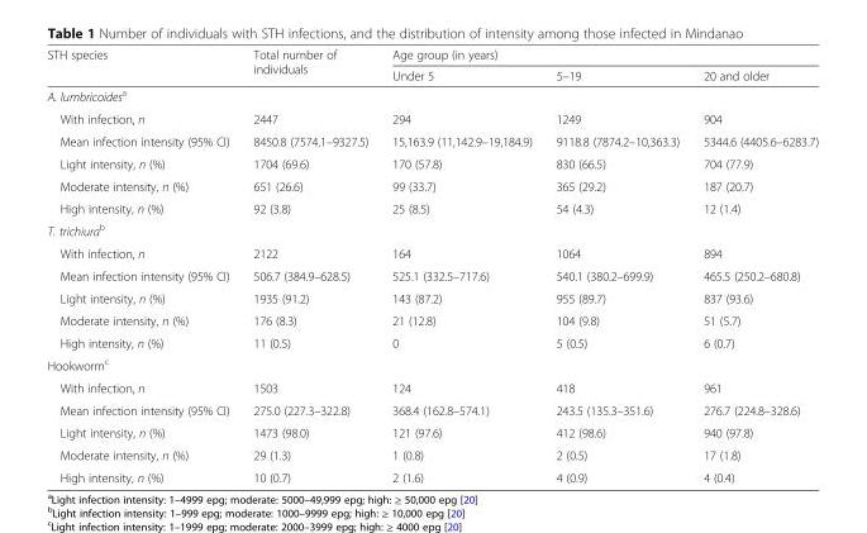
<table><thead><tr><td rowspan="2">STH species</td><td rowspan="2">Total number of individuals</td><td colspan="3">Age group (in years)</td></tr><tr><td>Under 5</td><td>5–19</td><td>20 and older</td></tr></thead><tbody><tr><td colspan="5">A. lumbricoides<sup>a</sup></td></tr><tr><td>With infection, n</td><td>2447</td><td>294</td><td>1249</td><td>904</td></tr><tr><td>Mean infection intensity (95% CI)</td><td>8450.8 (7574.1–9327.5)</td><td>15,163.9 (11,142.9–19,184.9)</td><td>9118.8 (7874.2–10,363.3)</td><td>5344.6 (4405.6–6283.7)</td></tr><tr><td>Light intensity, n (%)</td><td>1704 (69.6)</td><td>170 (57.8)</td><td>830 (66.5)</td><td>704 (77.9)</td></tr><tr><td>Moderate intensity, n (%)</td><td>651 (26.6)</td><td>99 (33.7)</td><td>365 (29.2)</td><td>187 (20.7)</td></tr><tr><td>High intensity, n (%)</td><td>92 (3.8)</td><td>25 (8.5)</td><td>54 (4.3)</td><td>12 (1.4)</td></tr><tr><td colspan="5">T. trichiura<sup>b</sup></td></tr><tr><td>With infection, n</td><td>2122</td><td>164</td><td>1064</td><td>894</td></tr><tr><td>Mean infection intensity (95% CI)</td><td>506.7 (384.9–628.5)</td><td>525.1 (332.5–717.6)</td><td>540.1 (380.2–699.9)</td><td>465.5 (250.2–680.8)</td></tr><tr><td>Light intensity, n (%)</td><td>1935 (91.2)</td><td>143 (87.2)</td><td>955 (89.7)</td><td>837 (93.6)</td></tr><tr><td>Moderate intensity, n (%)</td><td>176 (8.3)</td><td>21 (12.8)</td><td>104 (9.8)</td><td>51 (5.7)</td></tr><tr><td>High intensity, n (%)</td><td>11 (0.5)</td><td>0</td><td>5 (0.5)</td><td>6 (0.7)</td></tr><tr><td colspan="5">Hookworm<sup>c</sup></td></tr><tr><td>With infection, n</td><td>1503</td><td>124</td><td>418</td><td>961</td></tr><tr><td>Mean infection intensity (95% CI)</td><td>275.0 (227.3–322.8)</td><td>368.4 (162.8–574.1)</td><td>243.5 (135.3–351.6)</td><td>276.7 (224.8–328.6)</td></tr><tr><td>Light intensity, n (%)</td><td>1473 (98.0)</td><td>121 (97.6)</td><td>412 (98.6)</td><td>940 (97.8)</td></tr><tr><td>Moderate intensity, n (%)</td><td>29 (1.3)</td><td>1 (0.8)</td><td>2 (0.5)</td><td>17 (1.8)</td></tr><tr><td>High intensity, n (%)</td><td>10 (0.7)</td><td>2 (1.6)</td><td>4 (0.9)</td><td>4 (0.4)</td></tr></tbody></table>